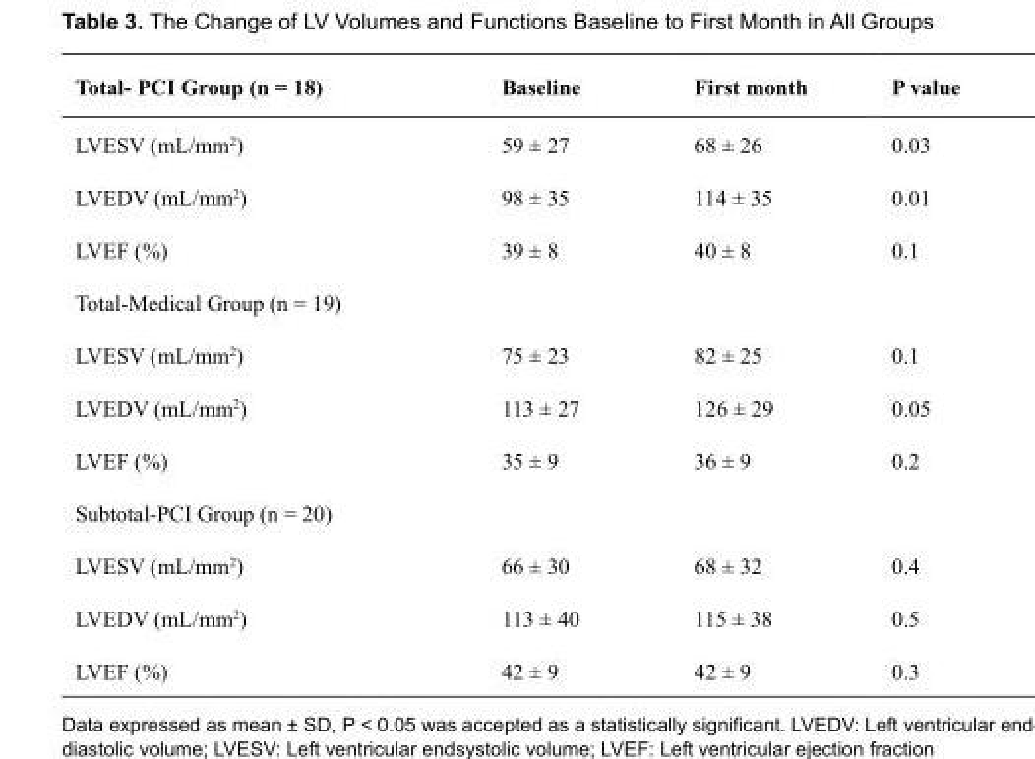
<table><thead><tr><td>Total- PCI Group (n = 18)</td><td>Baseline</td><td>First month</td><td>P value</td></tr></thead><tbody><tr><td>LVESV (mL/mm<sup>2</sup>)</td><td>59 ± 27</td><td>68 ± 26</td><td>0.03</td></tr><tr><td>LVEDV (mL/mm<sup>2</sup>)</td><td>98 ± 35</td><td>114 ± 35</td><td>0.01</td></tr><tr><td>LVEF (%)</td><td>39 ± 8</td><td>40 ± 8</td><td>0.1</td></tr><tr><td colspan="4">Total-Medical Group (n = 19)</td></tr><tr><td>LVESV (mL/mm<sup>2</sup>)</td><td>75 ± 23</td><td>82 ± 25</td><td>0.1</td></tr><tr><td>LVEDV (mL/mm<sup>2</sup>)</td><td>113 ± 27</td><td>126 ± 29</td><td>0.05</td></tr><tr><td>LVEF (%)</td><td>35 ± 9</td><td>36 ± 9</td><td>0.2</td></tr><tr><td colspan="4">Subtotal-PCI Group (n = 20)</td></tr><tr><td>LVESV (mL/mm<sup>2</sup>)</td><td>66 ± 30</td><td>68 ± 32</td><td>0.4</td></tr><tr><td>LVEDV (mL/mm<sup>2</sup>)</td><td>113 ± 40</td><td>115 ± 38</td><td>0.5</td></tr><tr><td>LVEF (%)</td><td>42 ± 9</td><td>42 ± 9</td><td>0.3</td></tr></tbody></table>